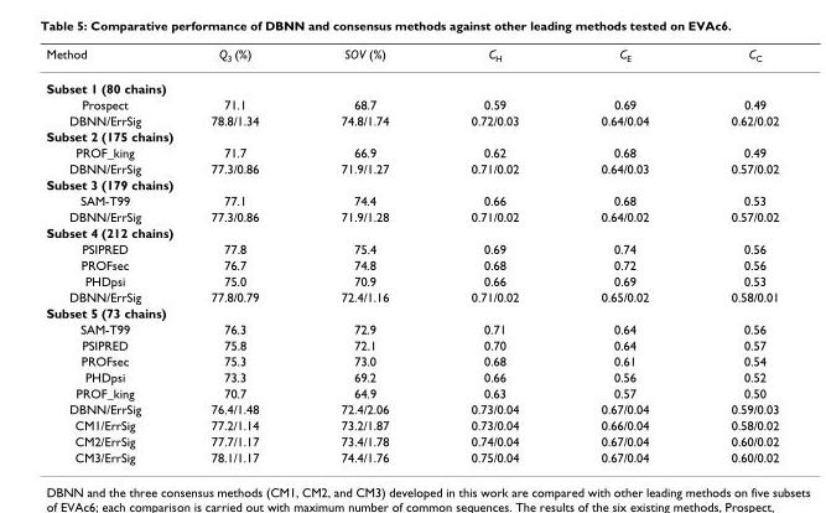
<table><thead><tr><td>Method</td><td>Q<sub>3</sub> (%)</td><td>SOV (%)</td><td>C<sub>H</sub></td><td>C<sub>E</sub></td><td>C<sub>C</sub></td></tr></thead><tbody><tr><td colspan="6">Subset 1 (80 chains)</td></tr><tr><td>Prospect</td><td>71.1</td><td>68.7</td><td>0.59</td><td>0.69</td><td>0.49</td></tr><tr><td>DBNN/ErrSig</td><td>78.8/1.34</td><td>74.8/1.74</td><td>0.72/0.03</td><td>0.64/0.04</td><td>0.62/0.02</td></tr><tr><td colspan="6">Subset 2 (175 chains)</td></tr><tr><td>PROF_king</td><td>71.7</td><td>66.9</td><td>0.62</td><td>0.68</td><td>0.49</td></tr><tr><td>DBNN/ErrSig</td><td>77.3/0.86</td><td>71.9/1.27</td><td>0.71/0.02</td><td>0.64/0.03</td><td>0.57/0.02</td></tr><tr><td colspan="6">Subset 3 (179 chains)</td></tr><tr><td>SAM-T99</td><td>77.1</td><td>74.4</td><td>0.66</td><td>0.68</td><td>0.53</td></tr><tr><td>DBNN/ErrSig</td><td>77.3/0.86</td><td>71.9/1.28</td><td>0.71/0.02</td><td>0.64/0.02</td><td>0.57/0.02</td></tr><tr><td colspan="6">Subset 4 (212 chains)</td></tr><tr><td>PSIPRED</td><td>77.8</td><td>75.4</td><td>0.69</td><td>0.74</td><td>0.56</td></tr><tr><td>PROFsec</td><td>76.7</td><td>74.8</td><td>0.68</td><td>0.72</td><td>0.56</td></tr><tr><td>PHDpsi</td><td>75.0</td><td>70.9</td><td>0.66</td><td>0.69</td><td>0.53</td></tr><tr><td>DBNN/ErrSig</td><td>77.8/0.79</td><td>72.4/1.16</td><td>0.71/0.02</td><td>0.65/0.02</td><td>0.58/0.01</td></tr><tr><td colspan="6">Subset 5 (73 chains)</td></tr><tr><td>SAM-T99</td><td>76.3</td><td>72.9</td><td>0.71</td><td>0.64</td><td>0.56</td></tr><tr><td>PSIPRED</td><td>75.8</td><td>72.1</td><td>0.70</td><td>0.64</td><td>0.57</td></tr><tr><td>PROFsec</td><td>75.3</td><td>73.0</td><td>0.68</td><td>0.61</td><td>0.54</td></tr><tr><td>PHDpsi</td><td>73.3</td><td>69.2</td><td>0.66</td><td>0.56</td><td>0.52</td></tr><tr><td>PROF_king</td><td>70.7</td><td>64.9</td><td>0.63</td><td>0.57</td><td>0.50</td></tr><tr><td>DBNN/ErrSig</td><td>76.4/1.48</td><td>72.4/2.06</td><td>0.73/0.04</td><td>0.67/0.04</td><td>0.59/0.03</td></tr><tr><td>CM1/ErrSig</td><td>77.2/1.14</td><td>73.2/1.87</td><td>0.73/0.04</td><td>0.66/0.04</td><td>0.58/0.02</td></tr><tr><td>CM2/ErrSig</td><td>77.7/1.17</td><td>73.4/1.78</td><td>0.74/0.04</td><td>0.67/0.04</td><td>0.60/0.02</td></tr><tr><td>CM3/ErrSig</td><td>78.1/1.17</td><td>74.4/1.76</td><td>0.75/0.04</td><td>0.67/0.04</td><td>0.60/0.02</td></tr></tbody></table>